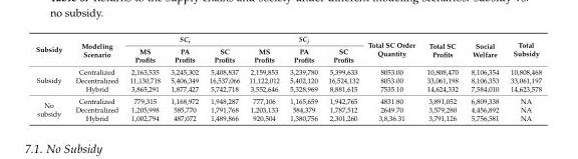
<table><thead><tr><td rowspan="2">Subsidy</td><td rowspan="2">Modeling Scenario</td><td colspan="3">SC<sub>i</sub></td><td colspan="3">SC<sub>j</sub></td><td rowspan="2">Total SC Order Quantity</td><td rowspan="2">Total SC Profits</td><td rowspan="2">Social Welfare</td><td rowspan="2">Total Subsidy</td></tr><tr><td>MS Profits</td><td>PA Profits</td><td>SC Profits</td><td>MS Profits</td><td>PA Profits</td><td>SC Profits</td></tr></thead><tbody><tr><td rowspan="3">Subsidy</td><td>Centralized</td><td>2,163,535</td><td>3,245,302</td><td>5,408,837</td><td>2,159,853</td><td>3,239,780</td><td>5,399,633</td><td>8053.00</td><td>10,808,470</td><td>8,106,354</td><td>10,808,468</td></tr><tr><td>Decentralized</td><td>11,130,718</td><td>5,406,349</td><td>16,537,066</td><td>11,122,012</td><td>5,402,120</td><td>16,524,132</td><td>8053.00</td><td>33,061,198</td><td>8,106,353</td><td>33,061,197</td></tr><tr><td>Hybrid</td><td>3,865,291</td><td>1,877,427</td><td>5,742,718</td><td>3,552,646</td><td>5,328,969</td><td>8,881,615</td><td>7535.10</td><td>14,624,332</td><td>7,584,010</td><td>14,623,578</td></tr><tr><td rowspan="3">No subsidy</td><td>Centralized</td><td>779,315</td><td>1,168,972</td><td>1,948,287</td><td>777,106</td><td>1,165,659</td><td>1,942,765</td><td>4831.80</td><td>3,891,052</td><td>6,809,338</td><td>NA</td></tr><tr><td>Decentralized</td><td>1,205,998</td><td>585,770</td><td>1,791,768</td><td>1,203,133</td><td>584,379</td><td>1,787,512</td><td>2649.70</td><td>3,579,280</td><td>4,456,892</td><td>NA</td></tr><tr><td>Hybrid</td><td>1,002,794</td><td>487,072</td><td>1,489,866</td><td>920,504</td><td>1,380,756</td><td>2,301,260</td><td>3,8,36.31</td><td>3,791,126</td><td>5,756,581</td><td>NA</td></tr></tbody></table>